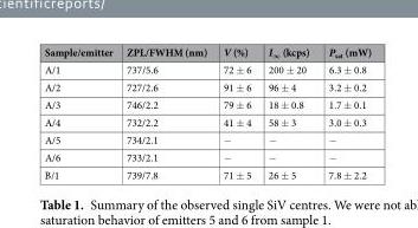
<table><thead><tr><td>Sample/emitter</td><td>ZPL/FWHM (nm)</td><td>V (%)</td><td>I<sub>∞</sub> (kcps)</td><td>P<sub>sat</sub> (mW)</td></tr></thead><tbody><tr><td>A/1</td><td>737/5.6</td><td>72 ± 6</td><td>200 ± 20</td><td>6.3 ± 0.8</td></tr><tr><td>A/2</td><td>727/2.6</td><td>91 ± 6</td><td>96 ± 4</td><td>3.2 ± 0.2</td></tr><tr><td>A/3</td><td>746/2.2</td><td>79 ± 6</td><td>18 ± 0.8</td><td>1.7 ± 0.1</td></tr><tr><td>A/4</td><td>732/2.2</td><td>41 ± 4</td><td>58 ± 3</td><td>3.0 ± 0.3</td></tr><tr><td>A/5</td><td>734/2.1</td><td>−</td><td>−</td><td>−</td></tr><tr><td>A/6</td><td>733/2.1</td><td>−</td><td>−</td><td>−</td></tr><tr><td>B/1</td><td>739/7.8</td><td>71 ± 5</td><td>26 ± 5</td><td>7.8 ± 2.2</td></tr></tbody></table>